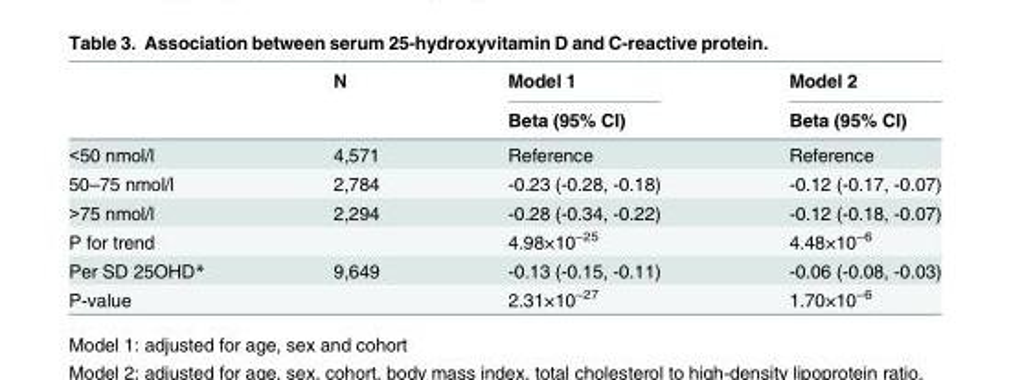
<table><thead><tr><td rowspan="2"></td><td rowspan="2">N</td><td rowspan="2">Model 1 Beta (95% CI)</td><td rowspan="2">Model 2 Beta (95% CI)</td></tr><tr></tr></thead><tbody><tr><td>&lt;50 nmol/l</td><td>4,571</td><td>Reference</td><td>Reference</td></tr><tr><td>50–75 nmol/l</td><td>2,784</td><td>-0.23 (-0.28, -0.18)</td><td>-0.12 (-0.17, -0.07)</td></tr><tr><td>&gt;75 nmol/l</td><td>2,294</td><td>-0.28 (-0.34, -0.22)</td><td>-0.12 (-0.18, -0.07)</td></tr><tr><td>P for trend</td><td></td><td>4.98×10<sup>−25</sup></td><td>4.48×10<sup>−6</sup></td></tr><tr><td>Per SD 25OHD*</td><td>9,649</td><td>-0.13 (-0.15, -0.11)</td><td>-0.06 (-0.08, -0.03)</td></tr><tr><td>P-value</td><td></td><td>2.31×10<sup>−27</sup></td><td>1.70×10<sup>−6</sup></td></tr></tbody></table>